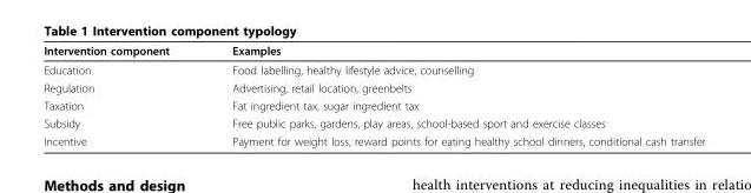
<table><thead><tr><td>Intervention component</td><td>Examples</td></tr></thead><tbody><tr><td>Education</td><td>Food labelling, healthy lifestyle advice, counselling</td></tr><tr><td>Regulation</td><td>Advertising, retail location, greenbelts</td></tr><tr><td>Taxation</td><td>Fat ingredient tax, sugar ingredient tax</td></tr><tr><td>Subsidy</td><td>Free public parks, gardens, play areas, school-based sport and exercise classes</td></tr><tr><td>Incentive</td><td>Payment for weight loss, reward points for eating healthy school dinners, conditional cash transfer</td></tr></tbody></table>